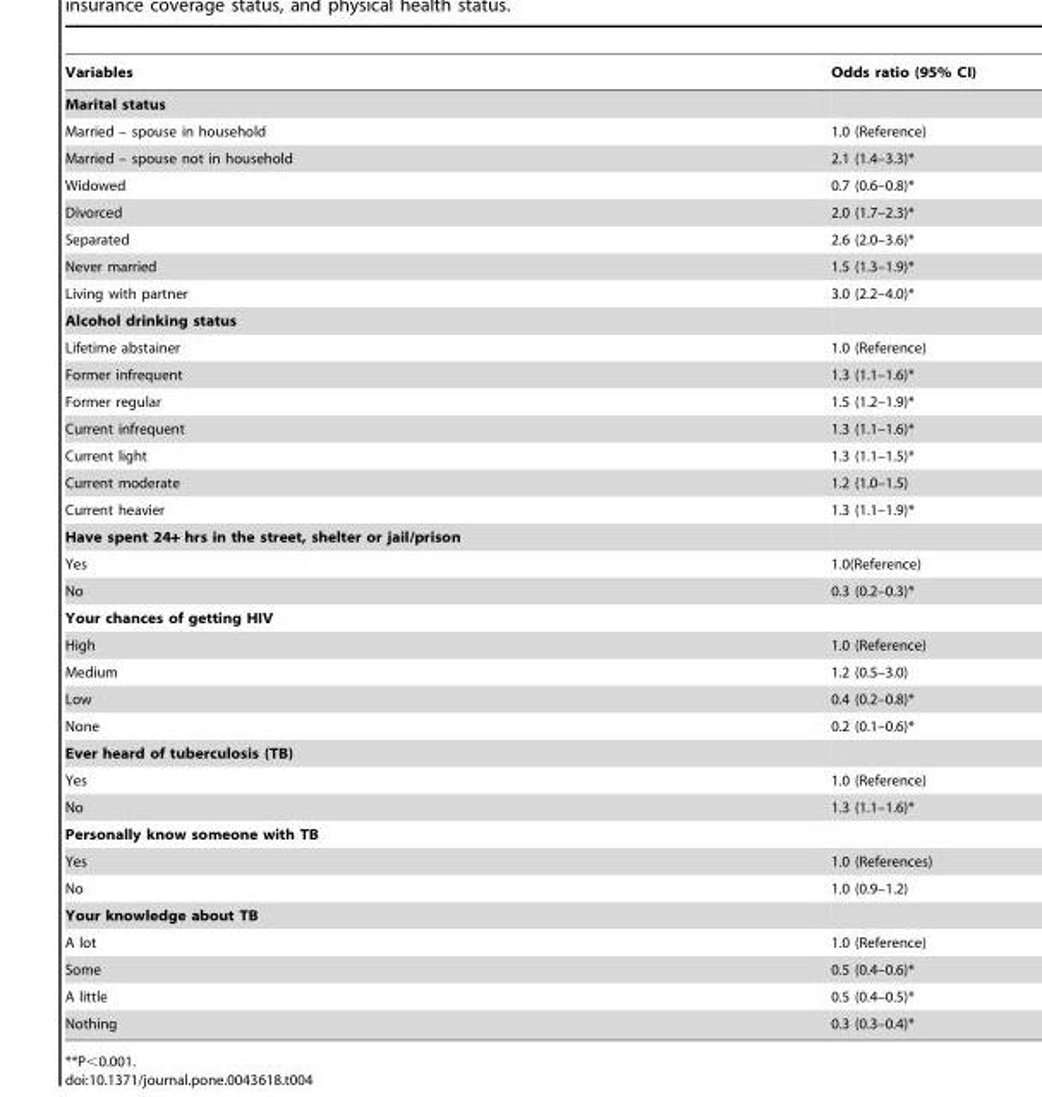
<table><thead><tr><td>Variables</td><td>Odds ratio (95% CI)</td></tr></thead><tbody><tr><td colspan="2">Marital status</td></tr><tr><td>Married – spouse in household</td><td>1.0 (Reference)</td></tr><tr><td>Married – spouse not in household</td><td>2.1 (1.4–3.3)*</td></tr><tr><td>Widowed</td><td>0.7 (0.6–0.8)*</td></tr><tr><td>Divorced</td><td>2.0 (1.7–2.3)*</td></tr><tr><td>Separated</td><td>2.6 (2.0–3.6)*</td></tr><tr><td>Never married</td><td>1.5 (1.3–1.9)*</td></tr><tr><td>Living with partner</td><td>3.0 (2.2–4.0)*</td></tr><tr><td colspan="2">Alcohol drinking status</td></tr><tr><td>Lifetime abstainer</td><td>1.0 (Reference)</td></tr><tr><td>Former infrequent</td><td>1.3 (1.1–1.6)*</td></tr><tr><td>Former regular</td><td>1.5 (1.2–1.9)*</td></tr><tr><td>Current infrequent</td><td>1.3 (1.1–1.6)*</td></tr><tr><td>Current light</td><td>1.3 (1.1–1.5)*</td></tr><tr><td>Current moderate</td><td>1.2 (1.0–1.5)</td></tr><tr><td>Current heavier</td><td>1.3 (1.1–1.9)*</td></tr><tr><td colspan="2">Have spent 24+ hrs in the street, shelter or jail/prison</td></tr><tr><td>Yes</td><td>1.0(Reference)</td></tr><tr><td>No</td><td>0.3 (0.2–0.3)*</td></tr><tr><td colspan="2">Your chances of getting HIV</td></tr><tr><td>High</td><td>1.0 (Reference)</td></tr><tr><td>Medium</td><td>1.2 (0.5–3.0)</td></tr><tr><td>Low</td><td>0.4 (0.2–0.8)*</td></tr><tr><td>None</td><td>0.2 (0.1–0.6)*</td></tr><tr><td colspan="2">Ever heard of tuberculosis (TB)</td></tr><tr><td>Yes</td><td>1.0 (Reference)</td></tr><tr><td>No</td><td>1.3 (1.1–1.6)*</td></tr><tr><td colspan="2">Personally know someone with TB</td></tr><tr><td>Yes</td><td>1.0 (References)</td></tr><tr><td>No</td><td>1.0 (0.9–1.2)</td></tr><tr><td colspan="2">Your knowledge about TB</td></tr><tr><td>A lot</td><td>1.0 (Reference)</td></tr><tr><td>Some</td><td>0.5 (0.4–0.6)*</td></tr><tr><td>A little</td><td>0.5 (0.4–0.5)*</td></tr><tr><td>Nothing</td><td>0.3 (0.3–0.4)*</td></tr></tbody></table>